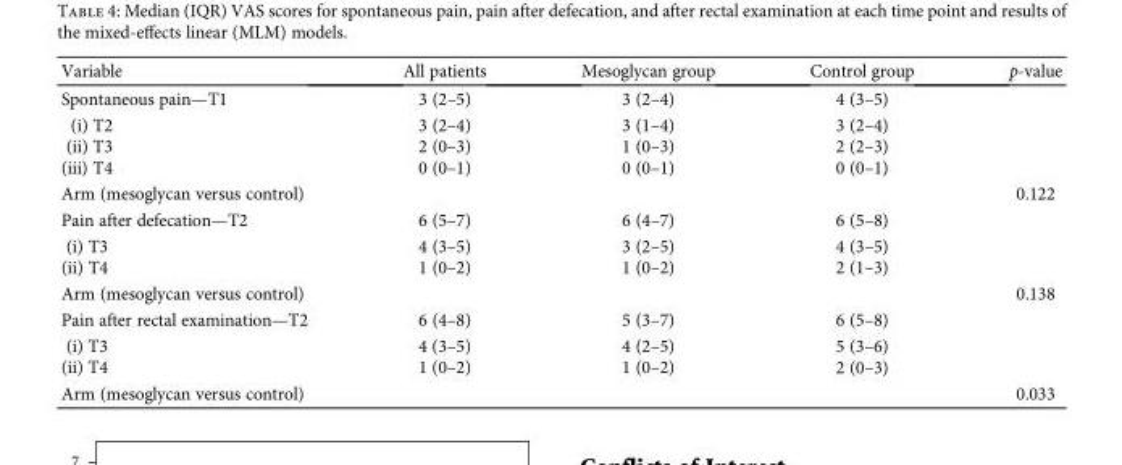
<table><thead><tr><td>Variable</td><td>All patients</td><td>Mesoglycan group</td><td>Control group</td><td>p-value</td></tr></thead><tbody><tr><td>Spontaneous pain—T1</td><td>3 (2–5)</td><td>3 (2–4)</td><td>4 (3–5)</td><td></td></tr><tr><td>(i) T2 (ii) T3 (iii) T4</td><td>3 (2–4) 2 (0–3) 0 (0–1)</td><td>3 (1–4) 1 (0–3) 0 (0–1)</td><td>3 (2–4) 2 (2–3) 0 (0–1)</td><td></td></tr><tr><td>Arm (mesoglycan versus control)</td><td></td><td></td><td></td><td>0.122</td></tr><tr><td>Pain after defecation—T2</td><td>6 (5–7)</td><td>6 (4–7)</td><td>6 (5–8)</td><td></td></tr><tr><td>(i) T3 (ii) T4</td><td>4 (3–5) 1 (0–2)</td><td>3 (2–5) 1 (0–2)</td><td>4 (3–5) 2 (1–3)</td><td></td></tr><tr><td>Arm (mesoglycan versus control)</td><td></td><td></td><td></td><td>0.138</td></tr><tr><td>Pain after rectal examination—T2</td><td>6 (4–8)</td><td>5 (3–7)</td><td>6 (5–8)</td><td></td></tr><tr><td>(i) T3 (ii) T4</td><td>4 (3–5) 1 (0–2)</td><td>4 (2–5) 1 (0–2)</td><td>5 (3–6) 2 (0–3)</td><td></td></tr><tr><td>Arm (mesoglycan versus control)</td><td></td><td></td><td></td><td>0.033</td></tr></tbody></table>